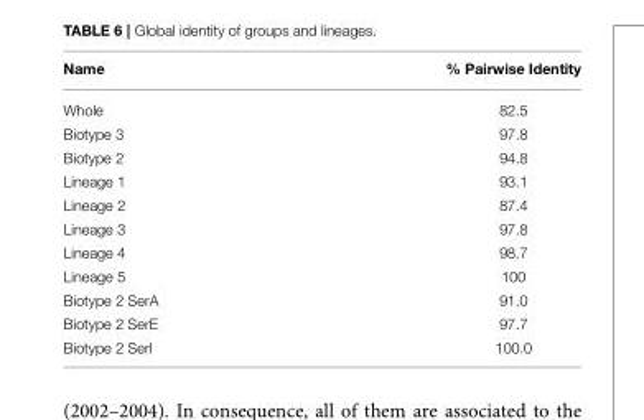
<table><thead><tr><td>Name</td><td>% Pairwise Identity</td></tr></thead><tbody><tr><td>Whole</td><td>82.5</td></tr><tr><td>Biotype 3</td><td>97.8</td></tr><tr><td>Biotype 2</td><td>94.8</td></tr><tr><td>Lineage 1</td><td>93.1</td></tr><tr><td>Lineage 2</td><td>87.4</td></tr><tr><td>Lineage 3</td><td>97.8</td></tr><tr><td>Lineage 4</td><td>98.7</td></tr><tr><td>Lineage 5</td><td>100</td></tr><tr><td>Biotype 2 SerA</td><td>91.0</td></tr><tr><td>Biotype 2 SerE</td><td>97.7</td></tr><tr><td>Biotype 2 SerI</td><td>100.0</td></tr></tbody></table>